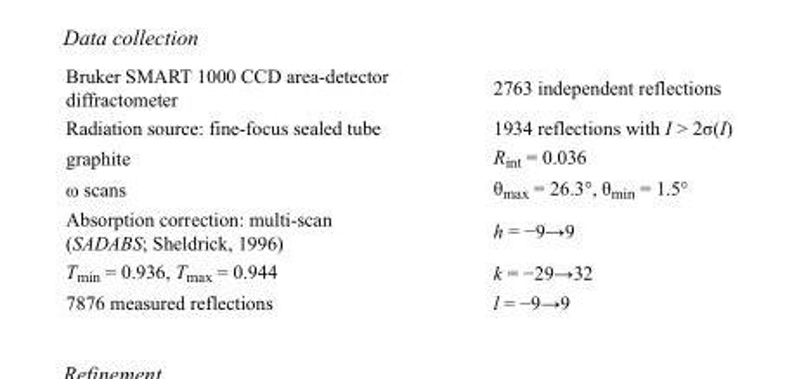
<table><tbody><tr><td>Bruker SMART 1000 CCD area-detector diffractometer</td><td>2763 independent reflections</td></tr><tr><td>Radiation source: fine-focus sealed tube</td><td>1934 reflections with I &gt; 2σ(I)</td></tr><tr><td>graphite</td><td>R<sub>int</sub> = 0.036</td></tr><tr><td>ω scans</td><td>θ<sub>max</sub> = 26.3°, θ<sub>min</sub> = 1.5°</td></tr><tr><td>Absorption correction: multi-scan (SADABS; Sheldrick, 1996)</td><td>h = −9→9</td></tr><tr><td>T<sub>min</sub> = 0.936, T<sub>max</sub> = 0.944</td><td>k = −29→32</td></tr><tr><td>7876 measured reflections</td><td>l = −9→9</td></tr></tbody></table>